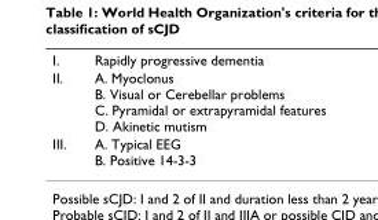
<table><tbody><tr><td>I.</td><td>Rapidly progressive dementia</td></tr><tr><td>II.</td><td>A. Myoclonus B. Visual or Cerebellar problems C. Pyramidal or extrapyramidal features D. Akinetic mutism</td></tr><tr><td>III.</td><td>A. Typical EEG B. Positive 14-3-3</td></tr></tbody></table>